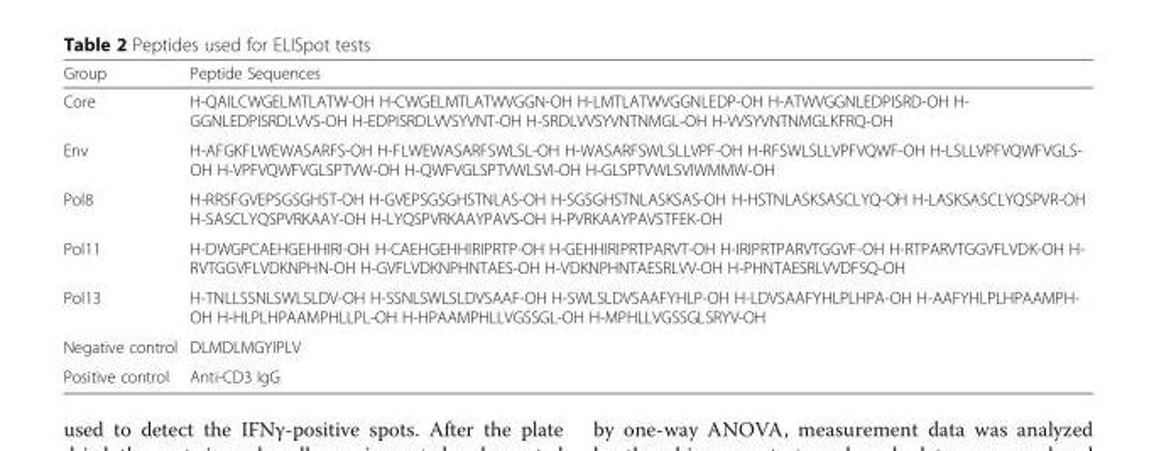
<table><thead><tr><td>Group</td><td>Peptide Sequences</td></tr></thead><tbody><tr><td>Core</td><td>H-QAILCWGELMTLATW-OH H-CWGELMTLATWVGGN-OH H-LMTLATWVGGNLEDP-OH H-ATWVGGNLEDPISRD-OH H- GGNLEDPISRDLVVS-OH H-EDPISRDLVVSYVNT-OH H-SRDLVVSYVNTNMGL-OH H-VVSYVNTNMGLKFRQ-OH</td></tr><tr><td>Env</td><td>H-AFGKFLWEWASARFS-OH H-FLWEWASARFSWLSL-OH H-WASARFSWLSLLVPF-OH H-RFSWLSLLVPFVQWF-OH H-LSLLVPFVQWFVGLS- OH H-VPFVQWFVGLSPTVW-OH H-QWFVGLSPTVWLSVI-OH H-GLSPTVWLSVIWMMW-OH</td></tr><tr><td>Pol8</td><td>H-RRSFGVEPSGSGHST-OH H-GVEPSGSGHSTNLAS-OH H-SGSGHSTNLASKSAS-OH H-HSTNLASKSASCLYQ-OH H-LASKSASCLYQSPVR-OH H-SASCLYQSPVRKAAY-OH H-LYQSPVRKAAYPAVS-OH H-PVRKAAYPAVSTFEK-OH</td></tr><tr><td>Pol11</td><td>H-DWGPCAEHGEHHIRI-OH H-CAEHGEHHIRIPRTP-OH H-GEHHIRIPRTPARVT-OH H-IRIPRTPARVTGGVF-OH H-RTPARVTGGVFLVDK-OH H- RVTGGVFLVDKNPHN-OH H-GVFLVDKNPHNTAES-OH H-VDKNPHNTAESRLVV-OH H-PHNTAESRLVVDFSQ-OH</td></tr><tr><td>Pol13</td><td>H-TNLLSSNLSWLSLDV-OH H-SSNLSWLSLDVSAAF-OH H-SWLSLDVSAAFYHLP-OH H-LDVSAAFYHLPLHPA-OH H-AAFYHLPLHPAAMPH- OH H-HLPLHPAAMPHLLPL-OH H-HPAAMPHLLVGSSGL-OH H-MPHLLVGSSGLSRYV-OH</td></tr><tr><td>Negative control</td><td>DLMDLMGYIPLV</td></tr><tr><td>Positive control</td><td>Anti-CD3 IgG</td></tr></tbody></table>